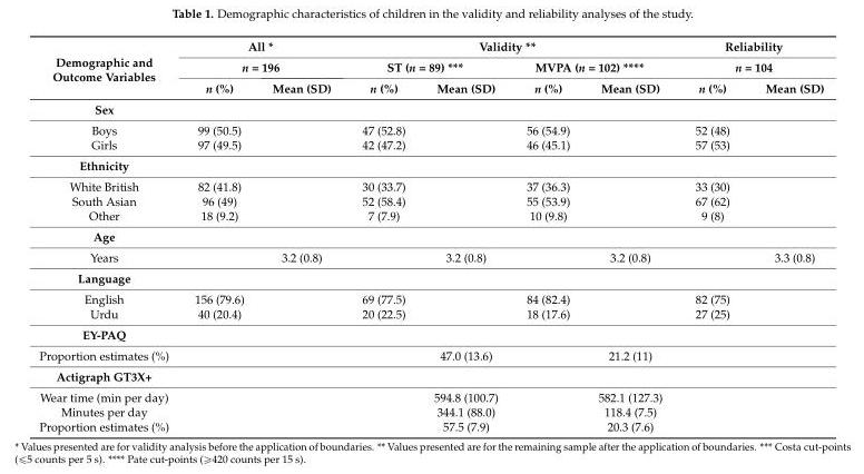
<table><thead><tr><td rowspan="3">Demographic and Outcome Variables</td><td rowspan="2" colspan="2">All * n = 196</td><td colspan="4">Validity **</td><td rowspan="2" colspan="2">Reliability n = 104</td></tr><tr><td colspan="2">ST (n = 89) ***</td><td colspan="2">MVPA (n = 102) ****</td></tr><tr><td>n (%)</td><td>Mean (SD)</td><td>n (%)</td><td>Mean (SD)</td><td>n (%)</td><td>Mean (SD)</td><td>n (%)</td><td>Mean (SD)</td></tr></thead><tbody><tr><td colspan="9">Sex</td></tr><tr><td>Boys</td><td>99 (50.5)</td><td></td><td>47 (52.8)</td><td></td><td>56 (54.9)</td><td></td><td>52 (48)</td><td></td></tr><tr><td>Girls</td><td>97 (49.5)</td><td></td><td>42 (47.2)</td><td></td><td>46 (45.1)</td><td></td><td>57 (53)</td><td></td></tr><tr><td colspan="9">Ethnicity</td></tr><tr><td>White British</td><td>82 (41.8)</td><td></td><td>30 (33.7)</td><td></td><td>37 (36.3)</td><td></td><td>33 (30)</td><td></td></tr><tr><td>South Asian</td><td>96 (49)</td><td></td><td>52 (58.4)</td><td></td><td>55 (53.9)</td><td></td><td>67 (62)</td><td></td></tr><tr><td>Other</td><td>18 (9.2)</td><td></td><td>7 (7.9)</td><td></td><td>10 (9.8)</td><td></td><td>9 (8)</td><td></td></tr><tr><td colspan="9">Age</td></tr><tr><td>Years</td><td></td><td>3.2 (0.8)</td><td></td><td>3.2 (0.8)</td><td></td><td>3.2 (0.8)</td><td></td><td>3.3 (0.8)</td></tr><tr><td colspan="9">Language</td></tr><tr><td>English</td><td>156 (79.6)</td><td></td><td>69 (77.5)</td><td></td><td>84 (82.4)</td><td></td><td>82 (75)</td><td></td></tr><tr><td>Urdu</td><td>40 (20.4)</td><td></td><td>20 (22.5)</td><td></td><td>18 (17.6)</td><td></td><td>27 (25)</td><td></td></tr><tr><td colspan="9">EY-PAQ</td></tr><tr><td>Proportion estimates (%)</td><td></td><td></td><td></td><td>47.0 (13.6)</td><td></td><td>21.2 (11)</td><td></td><td></td></tr><tr><td colspan="9">Actigraph GT3X+</td></tr><tr><td>Wear time (min per day)</td><td></td><td></td><td></td><td>594.8 (100.7)</td><td></td><td>582.1 (127.3)</td><td></td><td></td></tr><tr><td>Minutes per day</td><td></td><td></td><td></td><td>344.1 (88.0)</td><td></td><td>118.4 (7.5)</td><td></td><td></td></tr><tr><td>Proportion estimates (%)</td><td></td><td></td><td></td><td>57.5 (7.9)</td><td></td><td>20.3 (7.6)</td><td></td><td></td></tr></tbody></table>